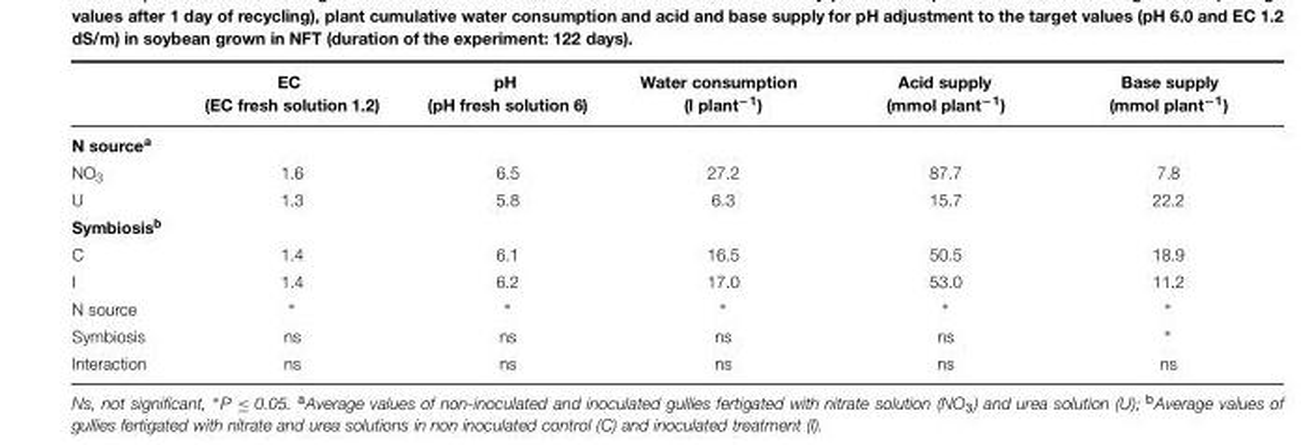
<table><thead><tr><td></td><td>EC (EC fresh solution 1.2)</td><td>pH (pH fresh solution 6)</td><td>Water consumption (l plant<sup>−1</sup>)</td><td>Acid supply (mmol plant<sup>−1</sup>)</td><td>Base supply (mmol plant<sup>−1</sup>)</td></tr></thead><tbody><tr><td colspan="6">N source<sup>a</sup></td></tr><tr><td>NO<sub>3</sub></td><td>1.6</td><td>6.5</td><td>27.2</td><td>87.7</td><td>7.8</td></tr><tr><td>U</td><td>1.3</td><td>5.8</td><td>6.3</td><td>15.7</td><td>22.2</td></tr><tr><td colspan="6">Symbiosis<sup>b</sup></td></tr><tr><td>C</td><td>1.4</td><td>6.1</td><td>16.5</td><td>50.5</td><td>18.9</td></tr><tr><td>I</td><td>1.4</td><td>6.2</td><td>17.0</td><td>53.0</td><td>11.2</td></tr><tr><td>N source</td><td>∗</td><td>∗</td><td>∗</td><td>∗</td><td>∗</td></tr><tr><td>Symbiosis</td><td>ns</td><td>ns</td><td>ns</td><td>ns</td><td>∗</td></tr><tr><td>Interaction</td><td>ns</td><td>ns</td><td>ns</td><td>ns</td><td>ns</td></tr></tbody></table>